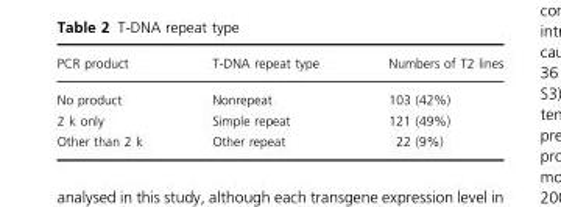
<table><thead><tr><td>PCR product</td><td>T-DNA repeat type</td><td>Numbers of T2 lines</td></tr></thead><tbody><tr><td>No product</td><td>Nonrepeat</td><td>103 (42%)</td></tr><tr><td>2 k only</td><td>Simple repeat</td><td>121 (49%)</td></tr><tr><td>Other than 2 k</td><td>Other repeat</td><td>22 (9%)</td></tr></tbody></table>